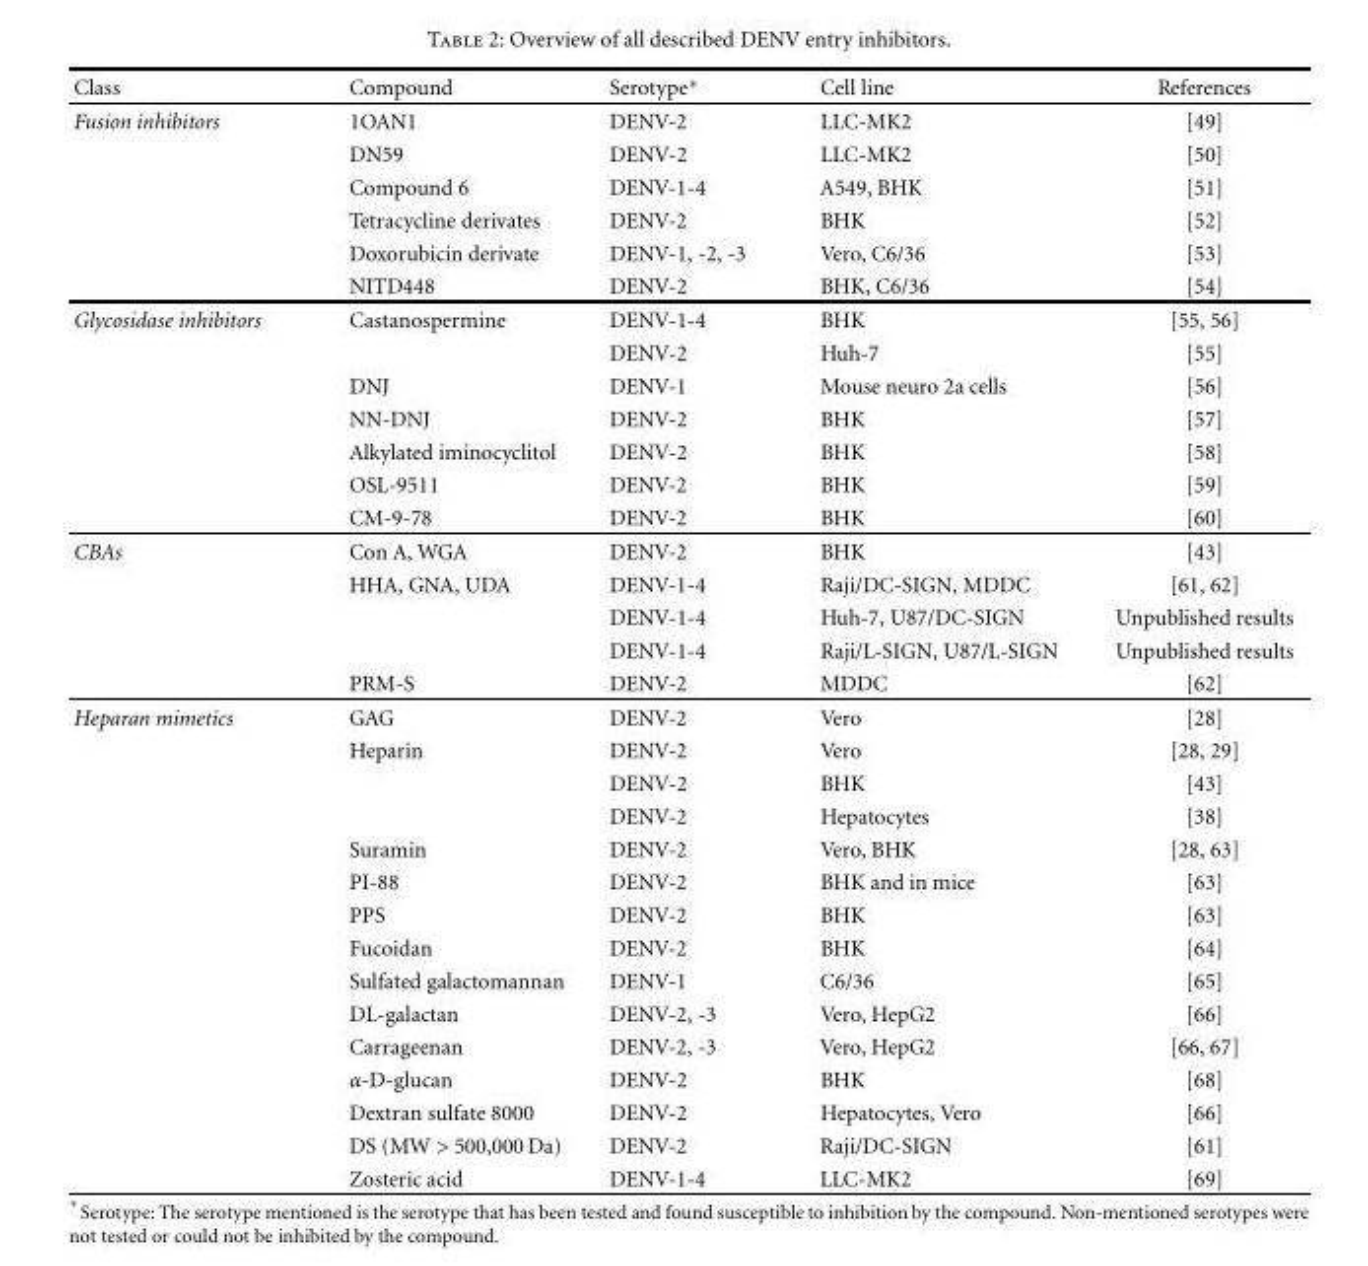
<table><thead><tr><td>Class</td><td>Compound</td><td>Serotype∗</td><td>Cell line</td><td>References</td></tr></thead><tbody><tr><td rowspan="6">Fusion inhibitors</td><td>1OAN1</td><td>DENV-2</td><td>LLC-MK2</td><td>[49]</td></tr><tr><td>DN59</td><td>DENV-2</td><td>LLC-MK2</td><td>[50]</td></tr><tr><td>Compound 6</td><td>DENV-1-4</td><td>A549, BHK</td><td>[51]</td></tr><tr><td>Tetracycline derivates</td><td>DENV-2</td><td>BHK</td><td>[52]</td></tr><tr><td>Doxorubicin derivate</td><td>DENV-1, -2, -3</td><td>Vero, C6/36</td><td>[53]</td></tr><tr><td>NITD448</td><td>DENV-2</td><td>BHK, C6/36</td><td>[54]</td></tr><tr><td rowspan="7">Glycosidase inhibitors</td><td>Castanospermine</td><td>DENV-1-4</td><td>BHK</td><td>[55, 56]</td></tr><tr><td></td><td>DENV-2</td><td>Huh-7</td><td>[55]</td></tr><tr><td>DNJ</td><td>DENV-1</td><td>Mouse neuro 2a cells</td><td>[56]</td></tr><tr><td>NN-DNJ</td><td>DENV-2</td><td>BHK</td><td>[57]</td></tr><tr><td>Alkylated iminocyclitol</td><td>DENV-2</td><td>BHK</td><td>[58]</td></tr><tr><td>OSL-9511</td><td>DENV-2</td><td>BHK</td><td>[59]</td></tr><tr><td>CM-9-78</td><td>DENV-2</td><td>BHK</td><td>[60]</td></tr><tr><td rowspan="5">CBAs</td><td>Con A, WGA</td><td>DENV-2</td><td>BHK</td><td>[43]</td></tr><tr><td>HHA, GNA, UDA</td><td>DENV-1-4</td><td>Raji/DC-SIGN, MDDC</td><td>[61, 62]</td></tr><tr><td></td><td>DENV-1-4</td><td>Huh-7, U87/DC-SIGN</td><td>Unpublished results</td></tr><tr><td></td><td>DENV-1-4</td><td>Raji/L-SIGN, U87/L-SIGN</td><td>Unpublished results</td></tr><tr><td>PRM-S</td><td>DENV-2</td><td>MDDC</td><td>[62]</td></tr><tr><td rowspan="15">Heparan mimetics</td><td>GAG</td><td>DENV-2</td><td>Vero</td><td>[28]</td></tr><tr><td>Heparin</td><td>DENV-2</td><td>Vero</td><td>[28, 29]</td></tr><tr><td></td><td>DENV-2</td><td>BHK</td><td>[43]</td></tr><tr><td></td><td>DENV-2</td><td>Hepatocytes</td><td>[38]</td></tr><tr><td>Suramin</td><td>DENV-2</td><td>Vero, BHK</td><td>[28, 63]</td></tr><tr><td>PI-88</td><td>DENV-2</td><td>BHK and in mice</td><td>[63]</td></tr><tr><td>PPS</td><td>DENV-2</td><td>BHK</td><td>[63]</td></tr><tr><td>Fucoidan</td><td>DENV-2</td><td>BHK</td><td>[64]</td></tr><tr><td>Sulfated galactomannan</td><td>DENV-1</td><td>C6/36</td><td>[65]</td></tr><tr><td>DL-galactan</td><td>DENV-2, -3</td><td>Vero, HepG2</td><td>[66]</td></tr><tr><td>Carrageenan</td><td>DENV-2, -3</td><td>Vero, HepG2</td><td>[66, 67]</td></tr><tr><td>α-D-glucan</td><td>DENV-2</td><td>BHK</td><td>[68]</td></tr><tr><td>Dextran sulfate 8000</td><td>DENV-2</td><td>Hepatocytes, Vero</td><td>[66]</td></tr><tr><td>DS (MW &gt; 500,000 Da)</td><td>DENV-2</td><td>Raji/DC-SIGN</td><td>[61]</td></tr><tr><td>Zosteric acid</td><td>DENV-1-4</td><td>LLC-MK2</td><td>[69]</td></tr></tbody></table>